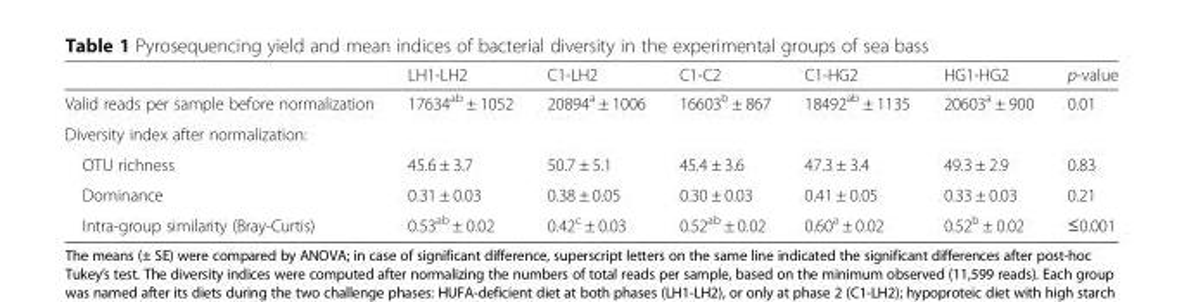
<table><thead><tr><td></td><td>LH1-LH2</td><td>C1-LH2</td><td>C1-C2</td><td>C1-HG2</td><td>HG1-HG2</td><td>p-value</td></tr></thead><tbody><tr><td>Valid reads per sample before normalization</td><td>17634<sup>ab</sup> ± 1052</td><td>20894<sup>a</sup> ± 1006</td><td>16603<sup>b</sup> ± 867</td><td>18492<sup>ab</sup> ± 1135</td><td>20603<sup>a</sup> ± 900</td><td>0.01</td></tr><tr><td colspan="7">Diversity index after normalization:</td></tr><tr><td>OTU richness</td><td>45.6 ± 3.7</td><td>50.7 ± 5.1</td><td>45.4 ± 3.6</td><td>47.3 ± 3.4</td><td>49.3 ± 2.9</td><td>0.83</td></tr><tr><td>Dominance</td><td>0.31 ± 0.03</td><td>0.38 ± 0.05</td><td>0.30 ± 0.03</td><td>0.41 ± 0.05</td><td>0.33 ± 0.03</td><td>0.21</td></tr><tr><td>Intra-group similarity (Bray-Curtis)</td><td>0.53<sup>ab</sup> ± 0.02</td><td>0.42<sup>c</sup> ± 0.03</td><td>0.52<sup>ab</sup> ± 0.02</td><td>0.60<sup>a</sup> ± 0.02</td><td>0.52<sup>b</sup> ± 0.02</td><td>≤0.001</td></tr></tbody></table>